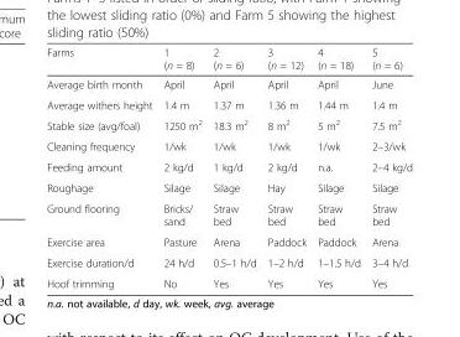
<table><thead><tr><td>Farms</td><td>1 (n = 8)</td><td>2 (n = 6)</td><td>3 (n = 12)</td><td>4 (n = 18)</td><td>5 (n = 6)</td></tr></thead><tbody><tr><td>Average birth month</td><td>April</td><td>April</td><td>April</td><td>April</td><td>June</td></tr><tr><td>Average withers height</td><td>1.4 m</td><td>1.37 m</td><td>1.36 m</td><td>1.44 m</td><td>1.4 m</td></tr><tr><td>Stable size (avg/foal)</td><td>1250 m<sup>2</sup></td><td>18.3 m<sup>2</sup></td><td>8 m<sup>2</sup></td><td>5 m<sup>2</sup></td><td>7.5 m<sup>2</sup></td></tr><tr><td>Cleaning frequency</td><td>1/wk</td><td>1/wk</td><td>1/wk</td><td>1/wk</td><td>2–3/wk</td></tr><tr><td>Feeding amount</td><td>2 kg/d</td><td>1 kg/d</td><td>2 kg/d</td><td>n.a.</td><td>2–4 kg/d</td></tr><tr><td>Roughage</td><td>Silage</td><td>Silage</td><td>Hay</td><td>Silage</td><td>Silage</td></tr><tr><td>Ground flooring</td><td>Bricks/ sand</td><td>Straw bed</td><td>Straw bed</td><td>Straw bed</td><td>Straw bed</td></tr><tr><td>Exercise area</td><td>Pasture</td><td>Arena</td><td>Paddock</td><td>Paddock</td><td>Arena</td></tr><tr><td>Exercise duration/d</td><td>24 h/d</td><td>0.5–1 h/d</td><td>1–2 h/d</td><td>1–1.5 h/d</td><td>3–4 h/d</td></tr><tr><td>Hoof trimming</td><td>No</td><td>Yes</td><td>Yes</td><td>Yes</td><td>Yes</td></tr></tbody></table>